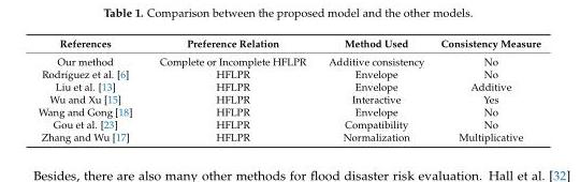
<table><thead><tr><td>References</td><td>Preference Relation</td><td>Method Used</td><td>Consistency Measure</td></tr></thead><tbody><tr><td>Our method</td><td>Complete or Incomplete HFLPR</td><td>Additive consistency</td><td>No</td></tr><tr><td>Rodríguez et al. [6]</td><td>HFLPR</td><td>Envelope</td><td>No</td></tr><tr><td>Liu et al. [13]</td><td>HFLPR</td><td>Envelope</td><td>Additive</td></tr><tr><td>Wu and Xu [15]</td><td>HFLPR</td><td>Interactive</td><td>Yes</td></tr><tr><td>Wang and Gong [18]</td><td>HFLPR</td><td>Envelope</td><td>No</td></tr><tr><td>Gou et al. [23]</td><td>HFLPR</td><td>Compatibility</td><td>No</td></tr><tr><td>Zhang and Wu [17]</td><td>HFLPR</td><td>Normalization</td><td>Multiplicative</td></tr></tbody></table>